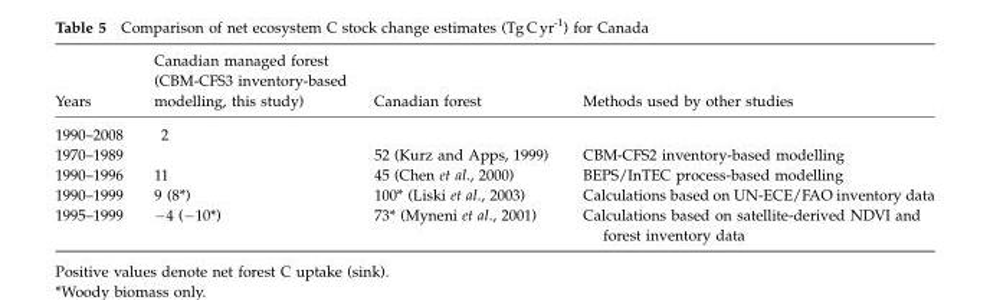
<table><thead><tr><td>Years</td><td>Canadian managed forest (CBM-CFS3 inventory-based modelling, this study)</td><td>Canadian forest</td><td>Methods used by other studies</td></tr></thead><tbody><tr><td>1990–2008</td><td>2</td><td></td><td></td></tr><tr><td>1970–1989</td><td></td><td>52 (Kurz and Apps, 1999)</td><td>CBM-CFS2 inventory-based modelling</td></tr><tr><td>1990–1996</td><td>11</td><td>45 (Chen et al., 2000)</td><td>BEPS/InTEC process-based modelling</td></tr><tr><td>1990–1999</td><td>9 (8*)</td><td>100* (Liski et al., 2003)</td><td>Calculations based on UN-ECE/FAO inventory data</td></tr><tr><td>1995–1999</td><td>−4 (−10*)</td><td>73* (Myneni et al., 2001)</td><td>Calculations based on satellite-derived NDVI and forest inventory data</td></tr></tbody></table>